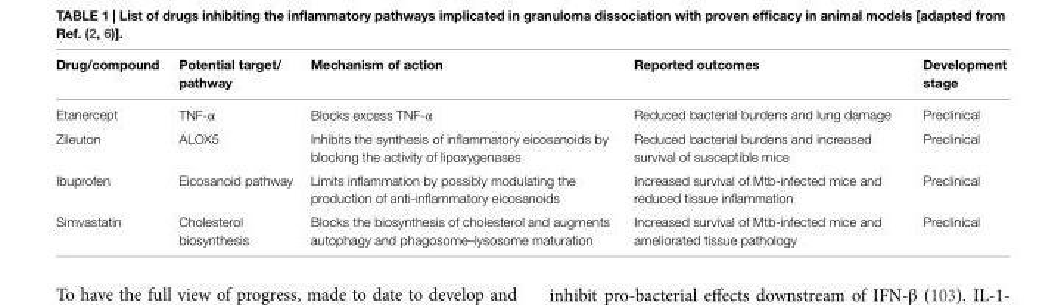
<table><thead><tr><td>Drug/compound</td><td>Potential target/ pathway</td><td>Mechanism of action</td><td>Reported outcomes</td><td>Development stage</td></tr></thead><tbody><tr><td>Etanercept</td><td>TNF-α</td><td>Blocks excess TNF-α</td><td>Reduced bacterial burdens and lung damage</td><td>Preclinical</td></tr><tr><td>Zileuton</td><td>ALOX5</td><td>Inhibits the synthesis of inflammatory eicosanoids by blocking the activity of lipoxygenases</td><td>Reduced bacterial burdens and increased survival of susceptible mice</td><td>Preclinical</td></tr><tr><td>Ibuprofen</td><td>Eicosanoid pathway</td><td>Limits inflammation by possibly modulating the production of anti-inflammatory eicosanoids</td><td>Increased survival of Mtb-infected mice and reduced tissue inflammation</td><td>Preclinical</td></tr><tr><td>Simvastatin</td><td>Cholesterol biosynthesis</td><td>Blocks the biosynthesis of cholesterol and augments autophagy and phagosome–lysosome maturation</td><td>Increased survival of Mtb-infected mice and ameliorated tissue pathology</td><td>Preclinical</td></tr></tbody></table>